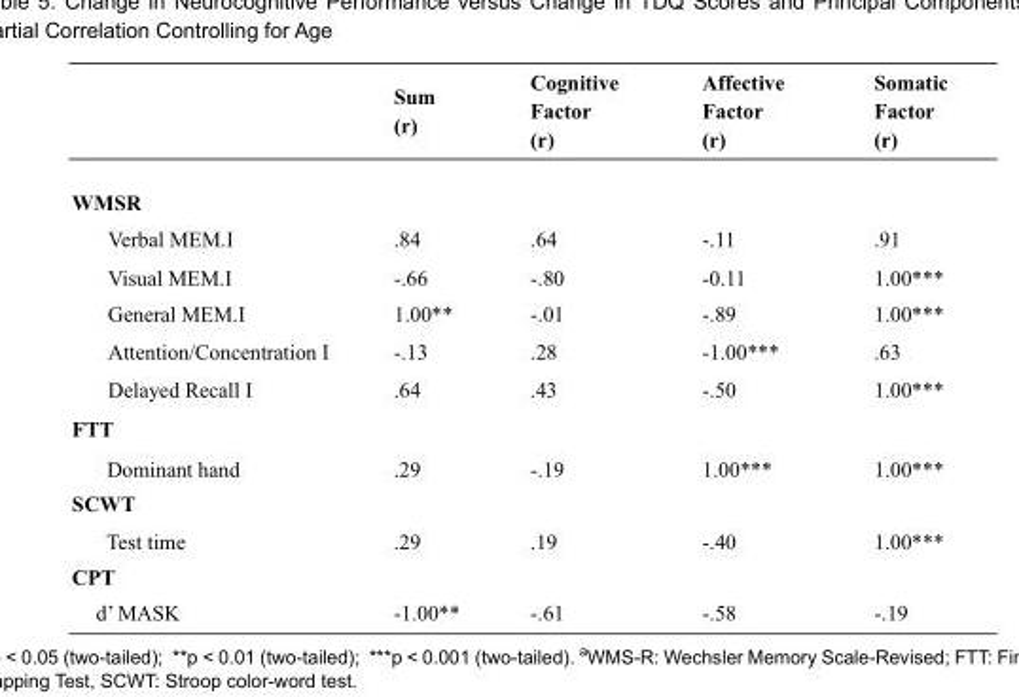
<table><thead><tr><td rowspan="2"></td><td rowspan="2">Sum (r)</td><td rowspan="2">Cognitive Factor (r)</td><td rowspan="2">Affective Factor (r)</td><td rowspan="2">Somatic Factor (r)</td></tr><tr></tr></thead><tbody><tr><td colspan="5">WMSR</td></tr><tr><td>Verbal MEM.I</td><td>.84</td><td>.64</td><td>-.11</td><td>.91</td></tr><tr><td>Visual MEM.I</td><td>-.66</td><td>-.80</td><td>-0.11</td><td>1.00***</td></tr><tr><td>General MEM.I</td><td>1.00**</td><td>-.01</td><td>-.89</td><td>1.00***</td></tr><tr><td>Attention/Concentration I</td><td>-.13</td><td>.28</td><td>-1.00***</td><td>.63</td></tr><tr><td>Delayed Recall I</td><td>.64</td><td>.43</td><td>-.50</td><td>1.00***</td></tr><tr><td colspan="5">FTT</td></tr><tr><td>Dominant hand</td><td>.29</td><td>-.19</td><td>1.00***</td><td>1.00***</td></tr><tr><td colspan="5">SCWT</td></tr><tr><td>Test time</td><td>.29</td><td>.19</td><td>-.40</td><td>1.00***</td></tr><tr><td colspan="5">CPT</td></tr><tr><td>d’ MASK</td><td>-1.00**</td><td>-.61</td><td>-.58</td><td>-.19</td></tr></tbody></table>